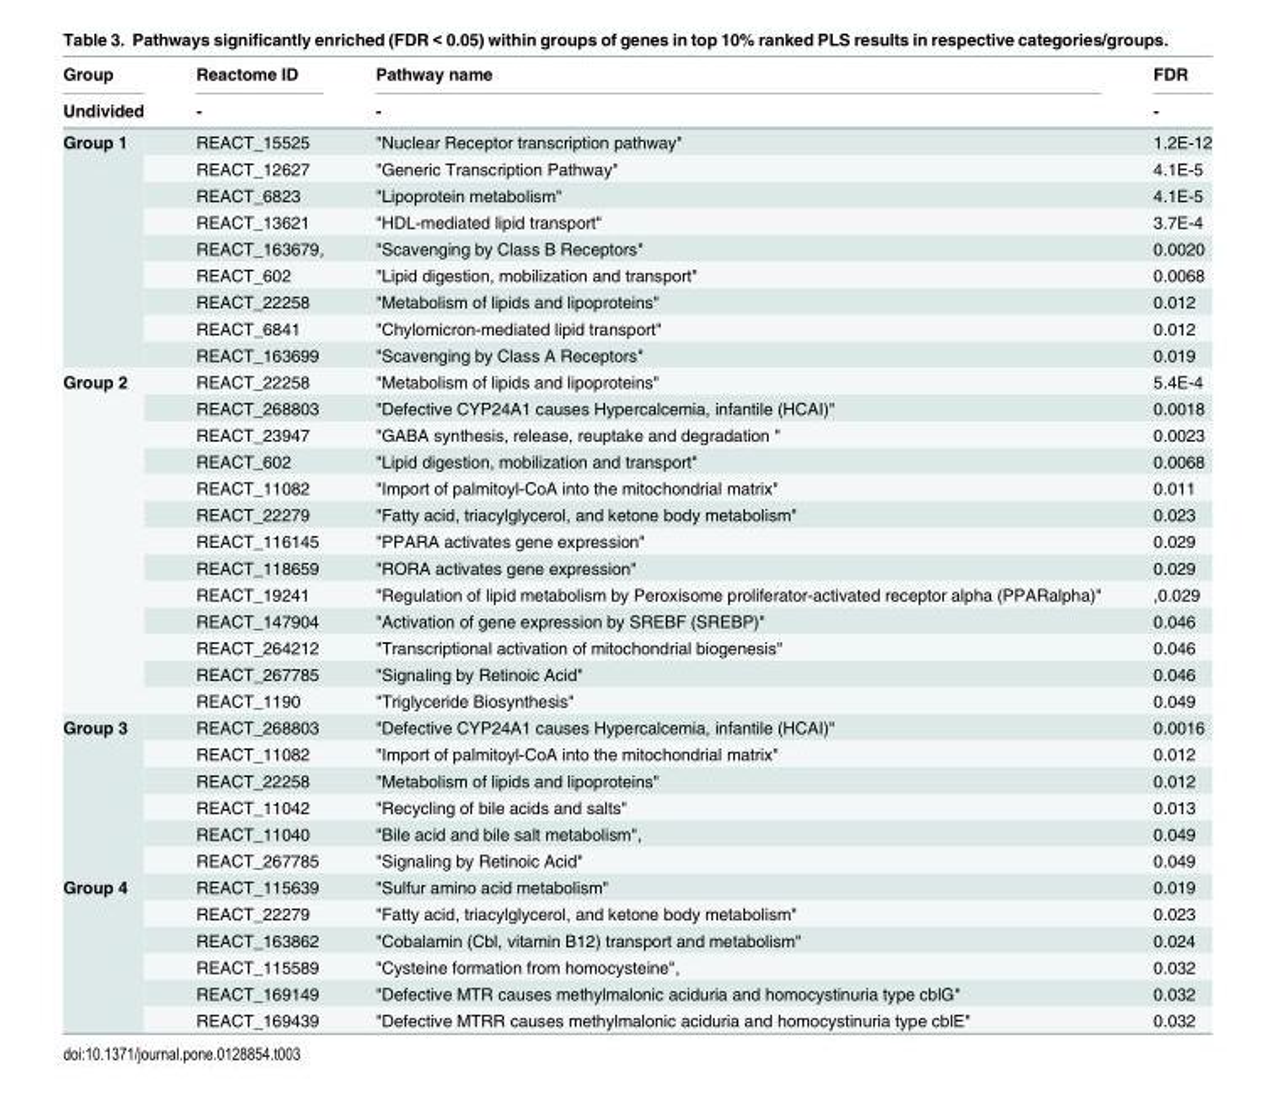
<table><thead><tr><td rowspan="2">Group Undivided</td><td rowspan="2">Reactome ID -</td><td rowspan="2">Pathway name -</td><td rowspan="2">FDR -</td></tr><tr></tr></thead><tbody><tr><td rowspan="9">Group 1</td><td>REACT_15525</td><td>&quot;Nuclear Receptor transcription pathway&quot;</td><td>1.2E-12</td></tr><tr><td>REACT_12627</td><td>&quot;Generic Transcription Pathway&quot;</td><td>4.1E-5</td></tr><tr><td>REACT_6823</td><td>&quot;Lipoprotein metabolism&quot;</td><td>4.1E-5</td></tr><tr><td>REACT_13621</td><td>&quot;HDL-mediated lipid transport&quot;</td><td>3.7E-4</td></tr><tr><td>REACT_163679,</td><td>&quot;Scavenging by Class B Receptors&quot;</td><td>0.0020</td></tr><tr><td>REACT_602</td><td>&quot;Lipid digestion, mobilization and transport&quot;</td><td>0.0068</td></tr><tr><td>REACT_22258</td><td>&quot;Metabolism of lipids and lipoproteins&quot;</td><td>0.012</td></tr><tr><td>REACT_6841</td><td>&quot;Chylomicron-mediated lipid transport&quot;</td><td>0.012</td></tr><tr><td>REACT_163699</td><td>&quot;Scavenging by Class A Receptors&quot;</td><td>0.019</td></tr><tr><td rowspan="13">Group 2</td><td>REACT_22258</td><td>&quot;Metabolism of lipids and lipoproteins&quot;</td><td>5.4E-4</td></tr><tr><td>REACT_268803</td><td>&quot;Defective CYP24A1 causes Hypercalcemia, infantile (HCAI)&quot;</td><td>0.0018</td></tr><tr><td>REACT_23947</td><td>&quot;GABA synthesis, release, reuptake and degradation &quot;</td><td>0.0023</td></tr><tr><td>REACT_602</td><td>&quot;Lipid digestion, mobilization and transport&quot;</td><td>0.0068</td></tr><tr><td>REACT_11082</td><td>&quot;Import of palmitoyl-CoA into the mitochondrial matrix&quot;</td><td>0.011</td></tr><tr><td>REACT_22279</td><td>&quot;Fatty acid, triacylglycerol, and ketone body metabolism&quot;</td><td>0.023</td></tr><tr><td>REACT_116145</td><td>&quot;PPARA activates gene expression&quot;</td><td>0.029</td></tr><tr><td>REACT_118659</td><td>&quot;RORA activates gene expression&quot;</td><td>0.029</td></tr><tr><td>REACT_19241</td><td>&quot;Regulation of lipid metabolism by Peroxisome proliferator-activated receptor alpha (PPARalpha)&quot;</td><td>,0.029</td></tr><tr><td>REACT_147904</td><td>&quot;Activation of gene expression by SREBF (SREBP)&quot;</td><td>0.046</td></tr><tr><td>REACT_264212</td><td>&quot;Transcriptional activation of mitochondrial biogenesis&quot;</td><td>0.046</td></tr><tr><td>REACT_267785</td><td>&quot;Signaling by Retinoic Acid&quot;</td><td>0.046</td></tr><tr><td>REACT_1190</td><td>&quot;Triglyceride Biosynthesis&quot;</td><td>0.049</td></tr><tr><td rowspan="6">Group 3</td><td>REACT_268803</td><td>&quot;Defective CYP24A1 causes Hypercalcemia, infantile (HCAI)&quot;</td><td>0.0016</td></tr><tr><td>REACT_11082</td><td>&quot;Import of palmitoyl-CoA into the mitochondrial matrix&quot;</td><td>0.012</td></tr><tr><td>REACT_22258</td><td>&quot;Metabolism of lipids and lipoproteins&quot;</td><td>0.012</td></tr><tr><td>REACT_11042</td><td>&quot;Recycling of bile acids and salts&quot;</td><td>0.013</td></tr><tr><td>REACT_11040</td><td>&quot;Bile acid and bile salt metabolism&quot;,</td><td>0.049</td></tr><tr><td>REACT_267785</td><td>&quot;Signaling by Retinoic Acid&quot;</td><td>0.049</td></tr><tr><td rowspan="6">Group 4</td><td>REACT_115639</td><td>&quot;Sulfur amino acid metabolism&quot;</td><td>0.019</td></tr><tr><td>REACT_22279</td><td>&quot;Fatty acid, triacylglycerol, and ketone body metabolism&quot;</td><td>0.023</td></tr><tr><td>REACT_163862</td><td>&quot;Cobalamin (Cbl, vitamin B12) transport and metabolism&quot;</td><td>0.024</td></tr><tr><td>REACT_115589</td><td>&quot;Cysteine formation from homocysteine&quot;,</td><td>0.032</td></tr><tr><td>REACT_169149</td><td>&quot;Defective MTR causes methylmalonic aciduria and homocystinuria type cblG&quot;</td><td>0.032</td></tr><tr><td>REACT_169439</td><td>&quot;Defective MTRR causes methylmalonic aciduria and homocystinuria type cblE&quot;</td><td>0.032</td></tr></tbody></table>